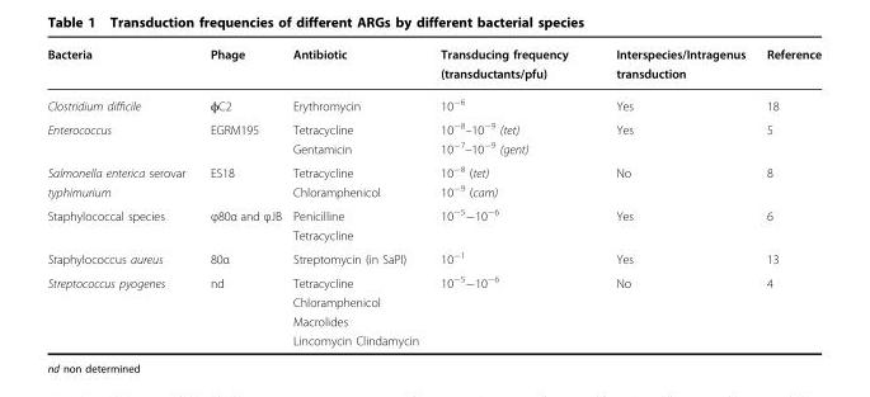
<table><thead><tr><td>Bacteria</td><td>Phage</td><td>Antibiotic</td><td>Transducing frequency (transductants/pfu)</td><td>Interspecies/Intragenus transduction</td><td>Reference</td></tr></thead><tbody><tr><td>Clostridium difficile</td><td>ϕC2</td><td>Erythromycin</td><td>10<sup>−6</sup></td><td>Yes</td><td>18</td></tr><tr><td>Enterococcus</td><td>EGRM195</td><td>Tetracycline Gentamicin</td><td>10<sup>−8</sup>–10<sup>−9</sup> (tet) 10<sup>−7</sup>–10<sup>−9</sup> (gent)</td><td>Yes</td><td>5</td></tr><tr><td>Salmonella enterica serovar typhimurium</td><td>ES18</td><td>Tetracycline Chloramphenicol</td><td>10<sup>−8</sup> (tet) 10<sup>−9</sup> (cam)</td><td>No</td><td>8</td></tr><tr><td>Staphylococcal species</td><td>φ80α and φJB</td><td>Penicilline Tetracycline</td><td>10<sup>−5</sup>−10<sup>−6</sup></td><td>Yes</td><td>6</td></tr><tr><td>Staphylococcus aureus</td><td>80α</td><td>Streptomycin (in SaPI)</td><td>10<sup>−1</sup></td><td>Yes</td><td>13</td></tr><tr><td>Streptococcus pyogenes</td><td>nd</td><td>Tetracycline Chloramphenicol Macrolides Lincomycin Clindamycin</td><td>10<sup>−5</sup>−10<sup>−6</sup></td><td>No</td><td>4</td></tr></tbody></table>